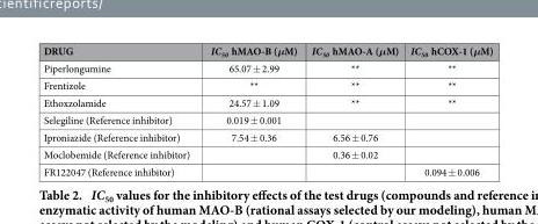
<table><thead><tr><td>DRUG</td><td>IC<sub>50</sub> hMAO-B (μM)</td><td>IC<sub>50</sub> hMAO-A (μM)</td><td>IC<sub>50</sub> hCOX-1 (μM)</td></tr></thead><tbody><tr><td>Piperlongumine</td><td>65.07 ± 2.99</td><td>**</td><td>**</td></tr><tr><td>Frentizole</td><td>**</td><td>**</td><td>**</td></tr><tr><td>Ethoxzolamide</td><td>24.57 ± 1.09</td><td>**</td><td>**</td></tr><tr><td>Selegiline (Reference inhibitor)</td><td>0.019 ± 0.001</td><td></td><td></td></tr><tr><td>Iproniazide (Reference inhibitor)</td><td>7.54 ± 0.36</td><td>6.56 ± 0.76</td><td></td></tr><tr><td>Moclobemide (Reference inhibitor)</td><td></td><td>0.36 ± 0.02</td><td></td></tr><tr><td>FR122047 (Reference inhibitor)</td><td></td><td></td><td>0.094 ± 0.006</td></tr></tbody></table>